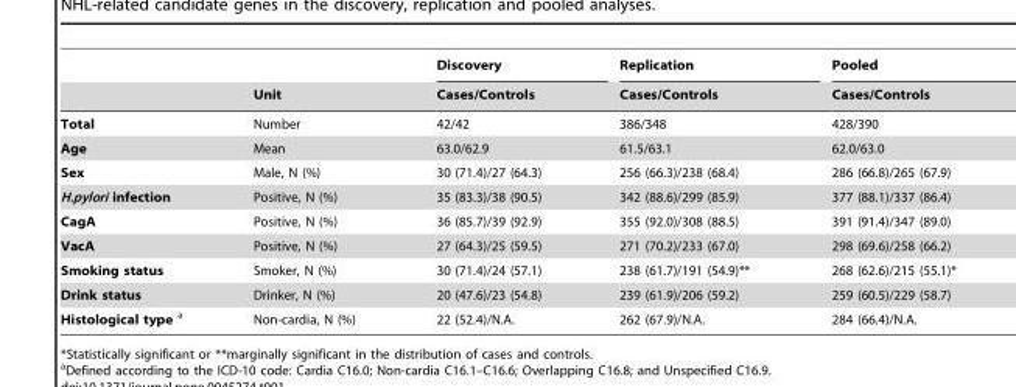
<table><thead><tr><td rowspan="2"></td><td rowspan="2">Unit</td><td rowspan="2">Discovery Cases/Controls</td><td rowspan="2">Replication Cases/Controls</td><td rowspan="2">Pooled Cases/Controls</td></tr><tr></tr></thead><tbody><tr><td>Total</td><td>Number</td><td>42/42</td><td>386/348</td><td>428/390</td></tr><tr><td>Age</td><td>Mean</td><td>63.0/62.9</td><td>61.5/63.1</td><td>62.0/63.0</td></tr><tr><td>Sex</td><td>Male, N (%)</td><td>30 (71.4)/27 (64.3)</td><td>256 (66.3)/238 (68.4)</td><td>286 (66.8)/265 (67.9)</td></tr><tr><td>H.pylori infection</td><td>Positive, N (%)</td><td>35 (83.3)/38 (90.5)</td><td>342 (88.6)/299 (85.9)</td><td>377 (88.1)/337 (86.4)</td></tr><tr><td>CagA</td><td>Positive, N (%)</td><td>36 (85.7)/39 (92.9)</td><td>355 (92.0)/308 (88.5)</td><td>391 (91.4)/347 (89.0)</td></tr><tr><td>VacA</td><td>Positive, N (%)</td><td>27 (64.3)/25 (59.5)</td><td>271 (70.2)/233 (67.0)</td><td>298 (69.6)/258 (66.2)</td></tr><tr><td>Smoking status</td><td>Smoker, N (%)</td><td>30 (71.4)/24 (57.1)</td><td>238 (61.7)/191 (54.9)**</td><td>268 (62.6)/215 (55.1)*</td></tr><tr><td>Drink status</td><td>Drinker, N (%)</td><td>20 (47.6)/23 (54.8)</td><td>239 (61.9)/206 (59.2)</td><td>259 (60.5)/229 (58.7)</td></tr><tr><td>Histological type a</td><td>Non-cardia, N (%)</td><td>22 (52.4)/N.A.</td><td>262 (67.9)/N.A.</td><td>284 (66.4)/N.A.</td></tr></tbody></table>